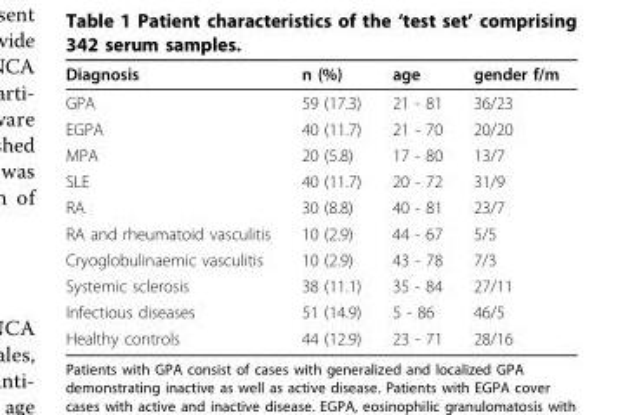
<table><thead><tr><td>Diagnosis</td><td>n (%)</td><td>age</td><td>gender f/m</td></tr></thead><tbody><tr><td>GPA</td><td>59 (17.3)</td><td>21 - 81</td><td>36/23</td></tr><tr><td>EGPA</td><td>40 (11.7)</td><td>21 - 70</td><td>20/20</td></tr><tr><td>MPA</td><td>20 (5.8)</td><td>17 - 80</td><td>13/7</td></tr><tr><td>SLE</td><td>40 (11.7)</td><td>20 - 72</td><td>31/9</td></tr><tr><td>RA</td><td>30 (8.8)</td><td>40 - 81</td><td>23/7</td></tr><tr><td>RA and rheumatoid vasculitis</td><td>10 (2.9)</td><td>44 - 67</td><td>5/5</td></tr><tr><td>Cryoglobulinaemic vasculitis</td><td>10 (2.9)</td><td>43 - 78</td><td>7/3</td></tr><tr><td>Systemic sclerosis</td><td>38 (11.1)</td><td>35 - 84</td><td>27/11</td></tr><tr><td>Infectious diseases</td><td>51 (14.9)</td><td>5 - 86</td><td>46/5</td></tr><tr><td>Healthy controls</td><td>44 (12.9)</td><td>23 - 71</td><td>28/16</td></tr></tbody></table>